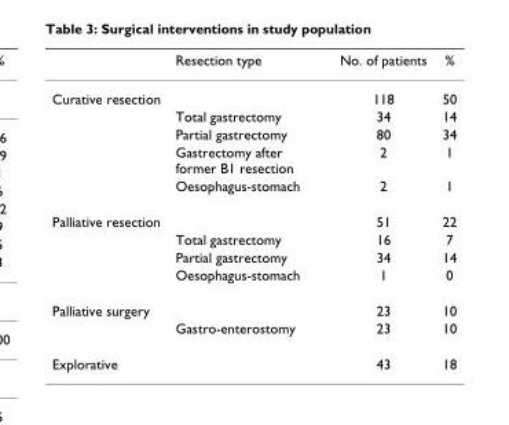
<table><thead><tr><td></td><td>Resection type</td><td>No. of patients</td><td>%</td></tr></thead><tbody><tr><td rowspan="5">Curative resection</td><td></td><td>118</td><td>50</td></tr><tr><td>Total gastrectomy</td><td>34</td><td>14</td></tr><tr><td>Partial gastrectomy</td><td>80</td><td>34</td></tr><tr><td>Gastrectomy after former B1 resection</td><td>2</td><td>1</td></tr><tr><td>Oesophagus-stomach</td><td>2</td><td>1</td></tr><tr><td rowspan="4">Palliative resection</td><td></td><td>51</td><td>22</td></tr><tr><td>Total gastrectomy</td><td>16</td><td>7</td></tr><tr><td>Partial gastrectomy</td><td>34</td><td>14</td></tr><tr><td>Oesophagus-stomach</td><td>1</td><td>0</td></tr><tr><td rowspan="2">Palliative surgery</td><td></td><td>23</td><td>10</td></tr><tr><td>Gastro-enterostomy</td><td>23</td><td>10</td></tr><tr><td>Explorative</td><td></td><td>43</td><td>18</td></tr></tbody></table>